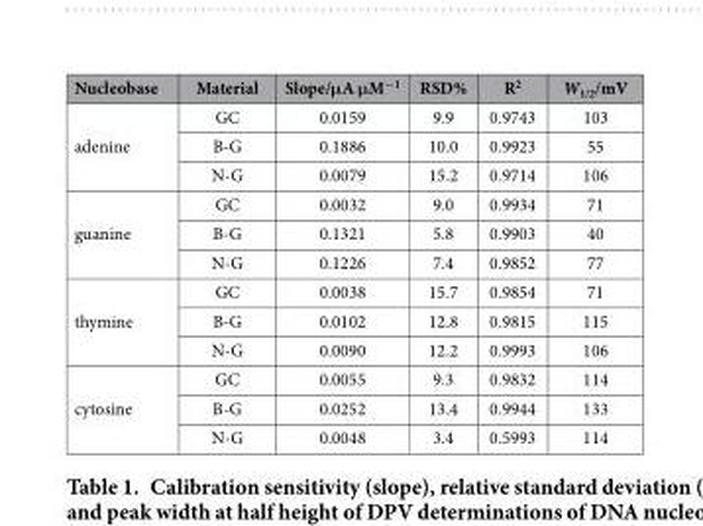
<table><thead><tr><td>Nucleobase</td><td>Material</td><td>Slope/μA μM<sup>−1</sup></td><td>RSD%</td><td>R<sup>2</sup></td><td>W<sub>1/2</sub>/mV</td></tr></thead><tbody><tr><td rowspan="3">adenine</td><td>GC</td><td>0.0159</td><td>9.9</td><td>0.9743</td><td>103</td></tr><tr><td>B-G</td><td>0.1886</td><td>10.0</td><td>0.9923</td><td>55</td></tr><tr><td>N-G</td><td>0.0079</td><td>15.2</td><td>0.9714</td><td>106</td></tr><tr><td rowspan="3">guanine</td><td>GC</td><td>0.0032</td><td>9.0</td><td>0.9934</td><td>71</td></tr><tr><td>B-G</td><td>0.1321</td><td>5.8</td><td>0.9903</td><td>40</td></tr><tr><td>N-G</td><td>0.1226</td><td>7.4</td><td>0.9852</td><td>77</td></tr><tr><td rowspan="3">thymine</td><td>GC</td><td>0.0038</td><td>15.7</td><td>0.9854</td><td>71</td></tr><tr><td>B-G</td><td>0.0102</td><td>12.8</td><td>0.9815</td><td>115</td></tr><tr><td>N-G</td><td>0.0090</td><td>12.2</td><td>0.9993</td><td>106</td></tr><tr><td rowspan="3">cytosine</td><td>GC</td><td>0.0055</td><td>9.3</td><td>0.9832</td><td>114</td></tr><tr><td>B-G</td><td>0.0252</td><td>13.4</td><td>0.9944</td><td>133</td></tr><tr><td>N-G</td><td>0.0048</td><td>3.4</td><td>0.5993</td><td>114</td></tr></tbody></table>